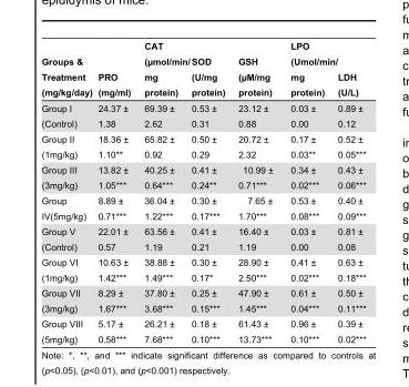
<table><thead><tr><td>Groups &amp; Treatment (mg/kg/day)</td><td>PRO (mg/ml)</td><td>CAT (µmol/min/ mg protein)</td><td>SOD (U/mg protein)</td><td>GSH (µM/mg protein)</td><td>LPO (Umol/min/ mg protein)</td><td>LDH (U/L)</td></tr></thead><tbody><tr><td>Group I (Control)</td><td>24.37 ± 1.38</td><td>69.39 ± 2.62</td><td>0.53 ± 0.31</td><td>23.12 ± 0.88</td><td>0.03 ± 0.00</td><td>0.89 ± 0.12</td></tr><tr><td>Group II (1mg/kg)</td><td>18.36 ± 1.10**</td><td>65.82 ± 0.92</td><td>0.50 ± 0.29</td><td>20.72 ± 2.32</td><td>0.17 ± 0.03**</td><td>0.52 ± 0.05***</td></tr><tr><td>Group III (3mg/kg)</td><td>13.82 ± 1.05***</td><td>40.25 ± 0.64***</td><td>0.41 ± 0.24**</td><td>10.99 ± 0.71***</td><td>0.34 ± 0.02***</td><td>0.43 ± 0.06***</td></tr><tr><td>Group IV(5mg/kg)</td><td>8.89 ± 0.71***</td><td>36.04 ± 1.22***</td><td>0.30 ± 0.17***</td><td>7.65 ± 1.70***</td><td>0.53 ± 0.08***</td><td>0.40 ± 0.09***</td></tr><tr><td>Group V (Control)</td><td>22.01 ± 0.57</td><td>63.56 ± 1.19</td><td>0.41 ± 0.21</td><td>16.40 ± 1.19</td><td>0.03 ± 0.00</td><td>0.81 ± 0.08</td></tr><tr><td>Group VI (1mg/kg)</td><td>10.63 ± 1.42***</td><td>38.88 ± 1.49***</td><td>0.30 ± 0.17*</td><td>28.90 ± 2.50***</td><td>0.41 ± 0.02***</td><td>0.63 ± 0.18***</td></tr><tr><td>Group VII (3mg/kg)</td><td>8.29 ± 1.67***</td><td>37.80 ± 3.68***</td><td>0.25 ± 0.15***</td><td>47.90 ± 1.45***</td><td>0.61 ± 0.04***</td><td>0.50 ± 0.11***</td></tr><tr><td>Group VIII (5mg/kg)</td><td>5.17 ± 0.58***</td><td>26.21 ± 7.68***</td><td>0.18 ± 0.10***</td><td>61.43 ± 13.73***</td><td>0.96 ± 0.10***</td><td>0.39 ± 0.02***</td></tr></tbody></table>